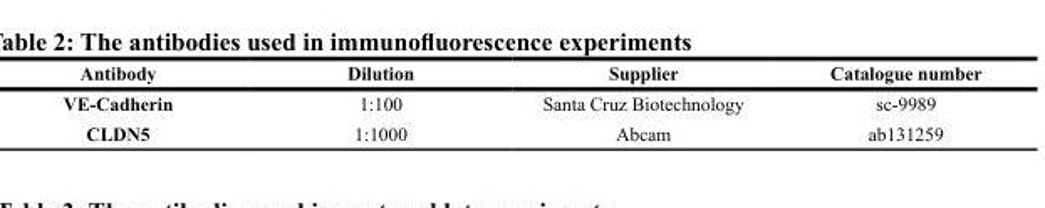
<table><thead><tr><td>Antibody</td><td>Dilution</td><td>Supplier</td><td>Catalogue number</td></tr></thead><tbody><tr><td>VE-Cadherin</td><td>1:100</td><td>Santa Cruz Biotechnology</td><td>sc-9989</td></tr><tr><td>CLDN5</td><td>1:1000</td><td>Abcam</td><td>ab131259</td></tr></tbody></table>